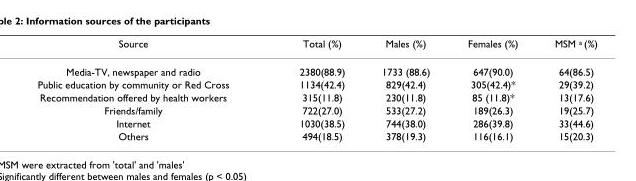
<table><thead><tr><td>Source</td><td>Total (%)</td><td>Males (%)</td><td>Females (%)</td><td>MSM <sup>a</sup> (%)</td></tr></thead><tbody><tr><td>Media-TV, newspaper and radio</td><td>2380(88.9)</td><td>1733 (88.6)</td><td>647(90.0)</td><td>64(86.5)</td></tr><tr><td>Public education by community or Red Cross</td><td>1134(42.4)</td><td>829(42.4)</td><td>305(42.4)*</td><td>29(39.2)</td></tr><tr><td>Recommendation offered by health workers</td><td>315(11.8)</td><td>230(11.8)</td><td>85 (11.8)*</td><td>13(17.6)</td></tr><tr><td>Friends/family</td><td>722(27.0)</td><td>533(27.2)</td><td>189(26.3)</td><td>19(25.7)</td></tr><tr><td>Internet</td><td>1030(38.5)</td><td>744(38.0)</td><td>286(39.8)</td><td>33(44.6)</td></tr><tr><td>Others</td><td>494(18.5)</td><td>378(19.3)</td><td>116(16.1)</td><td>15(20.3)</td></tr></tbody></table>